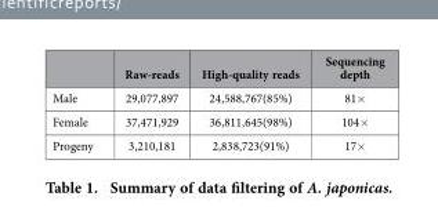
<table><thead><tr><td></td><td>Raw-reads</td><td>High-quality reads</td><td>Sequencing depth</td></tr></thead><tbody><tr><td>Male</td><td>29,077,897</td><td>24,588,767(85%)</td><td>81×</td></tr><tr><td>Female</td><td>37,471,929</td><td>36,811,645(98%)</td><td>104×</td></tr><tr><td>Progeny</td><td>3,210,181</td><td>2,838,723(91%)</td><td>17×</td></tr></tbody></table>